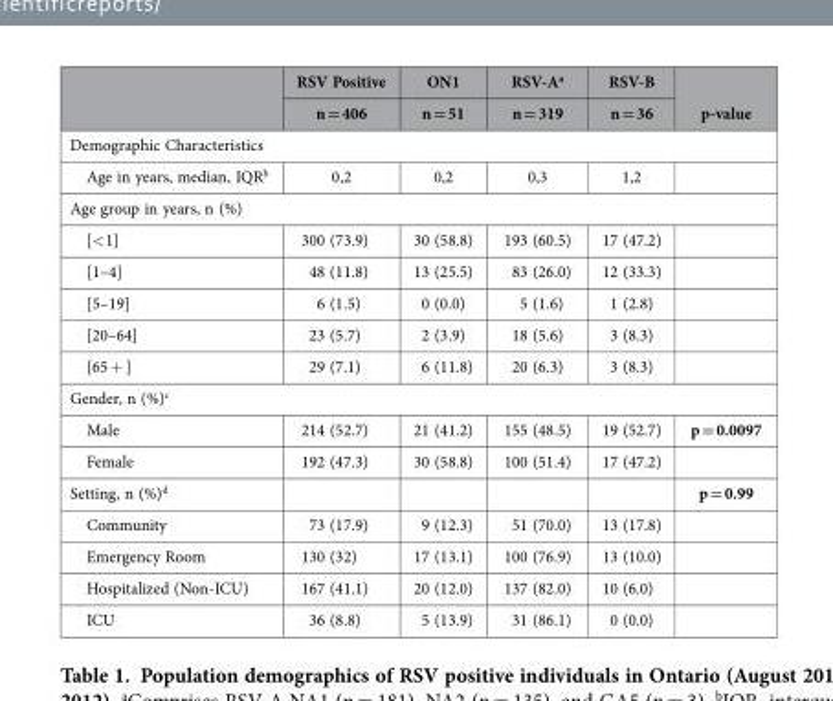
<table><thead><tr><td rowspan="2"></td><td rowspan="2">RSV Positive n = 406</td><td rowspan="2">ON1 n = 51</td><td rowspan="2">RSV-A<sup>a</sup> n = 319</td><td rowspan="2">RSV-B n = 36</td><td rowspan="2">p-value</td></tr><tr></tr></thead><tbody><tr><td colspan="6">Demographic Characteristics</td></tr><tr><td>Age in years, median, IQR<sup>b</sup></td><td>0,2</td><td>0,2</td><td>0,3</td><td>1,2</td><td></td></tr><tr><td colspan="6">Age group in years, n (%)</td></tr><tr><td>[&lt; 1]</td><td>300 (73.9)</td><td>30 (58.8)</td><td>193 (60.5)</td><td>17 (47.2)</td><td></td></tr><tr><td>[1–4]</td><td>48 (11.8)</td><td>13 (25.5)</td><td>83 (26.0)</td><td>12 (33.3)</td><td></td></tr><tr><td>[5–19]</td><td>6 (1.5)</td><td>0 (0.0)</td><td>5 (1.6)</td><td>1 (2.8)</td><td></td></tr><tr><td>[20–64]</td><td>23 (5.7)</td><td>2 (3.9)</td><td>18 (5.6)</td><td>3 (8.3)</td><td></td></tr><tr><td>[65 + ]</td><td>29 (7.1)</td><td>6 (11.8)</td><td>20 (6.3)</td><td>3 (8.3)</td><td></td></tr><tr><td colspan="6">Gender, n (%)<sup>c</sup></td></tr><tr><td>Male</td><td>214 (52.7)</td><td>21 (41.2)</td><td>155 (48.5)</td><td>19 (52.7)</td><td>p = 0.0097</td></tr><tr><td>Female</td><td>192 (47.3)</td><td>30 (58.8)</td><td>100 (51.4)</td><td>17 (47.2)</td><td></td></tr><tr><td>Setting, n (%)<sup>d</sup></td><td></td><td></td><td></td><td></td><td>p = 0.99</td></tr><tr><td>Community</td><td>73 (17.9)</td><td>9 (12.3)</td><td>51 (70.0)</td><td>13 (17.8)</td><td></td></tr><tr><td>Emergency Room</td><td>130 (32)</td><td>17 (13.1)</td><td>100 (76.9)</td><td>13 (10.0)</td><td></td></tr><tr><td>Hospitalized (Non-ICU)</td><td>167 (41.1)</td><td>20 (12.0)</td><td>137 (82.0)</td><td>10 (6.0)</td><td></td></tr><tr><td>ICU</td><td>36 (8.8)</td><td>5 (13.9)</td><td>31 (86.1)</td><td>0 (0.0)</td><td></td></tr></tbody></table>